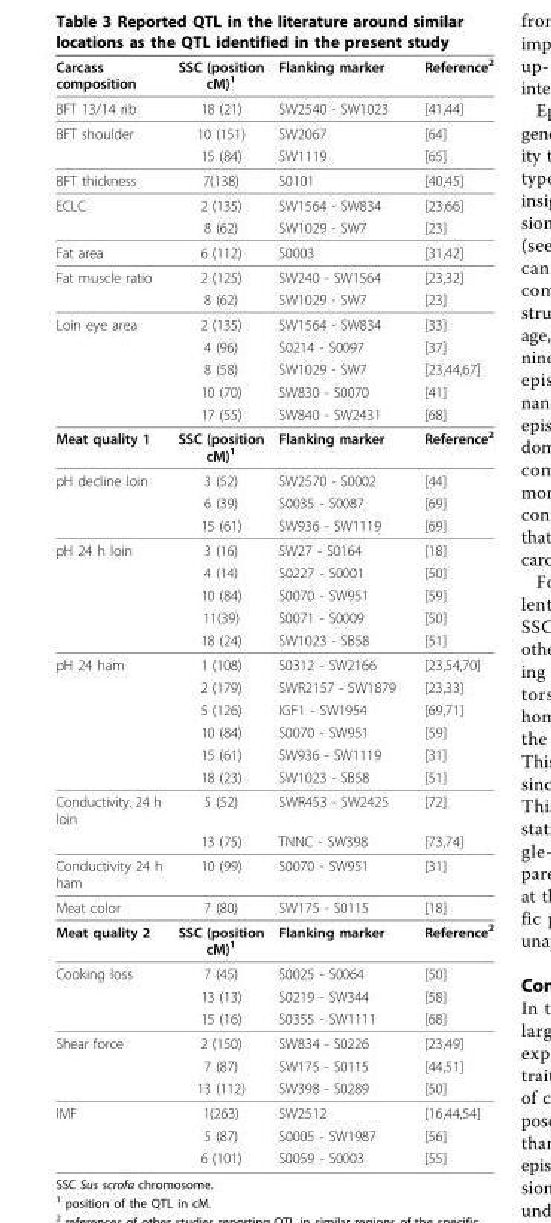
<table><thead><tr><td>Carcass composition</td><td>SSC (position cM)<sup>1</sup></td><td>Flanking marker</td><td>Reference<sup>2</sup></td></tr></thead><tbody><tr><td>BFT 13/14 rib</td><td>18 (21)</td><td>SW2540 - SW1023</td><td>[41,44]</td></tr><tr><td rowspan="2">BFT shoulder</td><td>10 (151)</td><td>SW2067</td><td>[64]</td></tr><tr><td>15 (84)</td><td>SW1119</td><td>[65]</td></tr><tr><td>BFT thickness</td><td>7(138)</td><td>S0101</td><td>[40,45]</td></tr><tr><td rowspan="2">ECLC</td><td>2 (135)</td><td>SW1564 - SW834</td><td>[23,66]</td></tr><tr><td>8 (62)</td><td>SW1029 - SW7</td><td>[23]</td></tr><tr><td>Fat area</td><td>6 (112)</td><td>S0003</td><td>[31,42]</td></tr><tr><td rowspan="2">Fat muscle ratio</td><td>2 (125)</td><td>SW240 - SW1564</td><td>[23,32]</td></tr><tr><td>8 (62)</td><td>SW1029 - SW7</td><td>[23]</td></tr><tr><td rowspan="5">Loin eye area</td><td>2 (135)</td><td>SW1564 - SW834</td><td>[33]</td></tr><tr><td>4 (96)</td><td>S0214 - S0097</td><td>[37]</td></tr><tr><td>8 (58)</td><td>SW1029 - SW7</td><td>[23,44,67]</td></tr><tr><td>10 (70)</td><td>SW830 - S0070</td><td>[41]</td></tr><tr><td>17 (55)</td><td>SW840 - SW2431</td><td>[68]</td></tr><tr><td>Meat quality 1</td><td>SSC (position cM)<sup>1</sup></td><td>Flanking marker</td><td>Reference<sup>2</sup></td></tr><tr><td rowspan="3">pH decline loin</td><td>3 (52)</td><td>SW2570 - S0002</td><td>[44]</td></tr><tr><td>6 (39)</td><td>S0035 - S0087</td><td>[69]</td></tr><tr><td>15 (61)</td><td>SW936 - SW1119</td><td>[69]</td></tr><tr><td rowspan="5">pH 24 h loin</td><td>3 (16)</td><td>SW27 - S0164</td><td>[18]</td></tr><tr><td>4 (14)</td><td>S0227 - S0001</td><td>[50]</td></tr><tr><td>10 (84)</td><td>S0070 - SW951</td><td>[59]</td></tr><tr><td>11(39)</td><td>S0071 - S0009</td><td>[50]</td></tr><tr><td>18 (24)</td><td>SW1023 - SB58</td><td>[51]</td></tr><tr><td rowspan="6">pH 24 ham</td><td>1 (108)</td><td>S0312 - SW2166</td><td>[23,54,70]</td></tr><tr><td>2 (179)</td><td>SWR2157 - SW1879</td><td>[23,33]</td></tr><tr><td>5 (126)</td><td>IGF1 - SW1954</td><td>[69,71]</td></tr><tr><td>10 (84)</td><td>S0070 - SW951</td><td>[59]</td></tr><tr><td>15 (61)</td><td>SW936 - SW1119</td><td>[31]</td></tr><tr><td>18 (23)</td><td>SW1023 - SB58</td><td>[51]</td></tr><tr><td rowspan="2">Conductivity. 24 h loin</td><td>5 (52)</td><td>SWR453 - SW2425</td><td>[72]</td></tr><tr><td>13 (75)</td><td>TNNC - SW398</td><td>[73,74]</td></tr><tr><td>Conductivity 24 h ham</td><td>10 (99)</td><td>S0070 - SW951</td><td>[31]</td></tr><tr><td>Meat color</td><td>7 (80)</td><td>SW175 - S0115</td><td>[18]</td></tr><tr><td>Meat quality 2</td><td>SSC (position cM)<sup>1</sup></td><td>Flanking marker</td><td>Reference<sup>2</sup></td></tr><tr><td rowspan="3">Cooking loss</td><td>7 (45)</td><td>S0025 - S0064</td><td>[50]</td></tr><tr><td>13 (13)</td><td>S0219 - SW344</td><td>[58]</td></tr><tr><td>15 (16)</td><td>S0355 - SW1111</td><td>[68]</td></tr><tr><td rowspan="3">Shear force</td><td>2 (150)</td><td>SW834 - S0226</td><td>[23,49]</td></tr><tr><td>7 (87)</td><td>SW175 - S0115</td><td>[44,51]</td></tr><tr><td>13 (112)</td><td>SW398 - S0289</td><td>[50]</td></tr><tr><td rowspan="3">IMF</td><td>1(263)</td><td>SW2512</td><td>[16,44,54]</td></tr><tr><td>5 (87)</td><td>S0005 - SW1987</td><td>[56]</td></tr><tr><td>6 (101)</td><td>S0059 - S0003</td><td>[55]</td></tr></tbody></table>